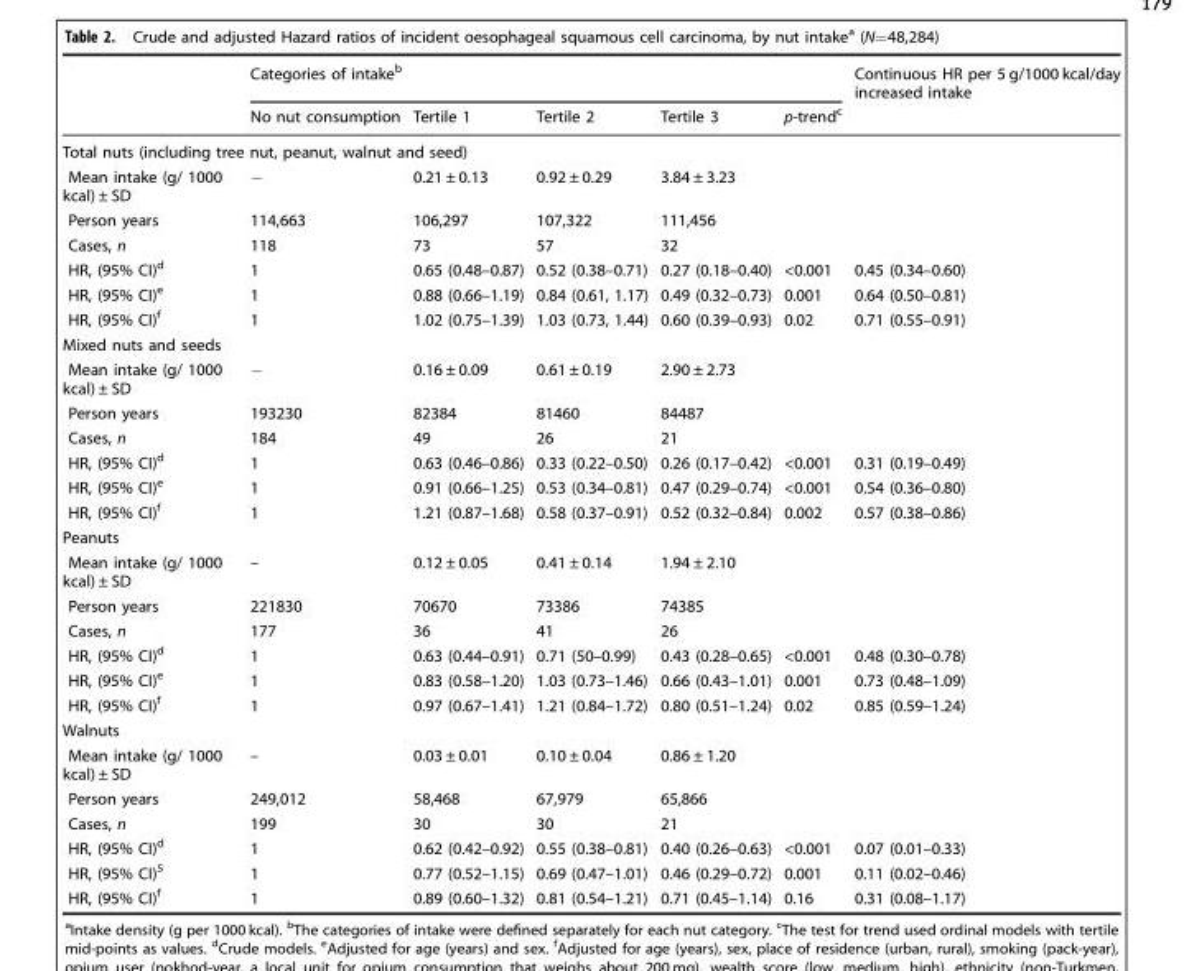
<table><thead><tr><td rowspan="2"></td><td colspan="5">Categories of intake<sup>b</sup></td><td rowspan="2">Continuous HR per 5 g/1000 kcal/day increased intake</td></tr><tr><td>No nut consumption</td><td>Tertile 1</td><td>Tertile 2</td><td>Tertile 3</td><td>p-trend<sup>c</sup></td></tr></thead><tbody><tr><td colspan="7">Total nuts (including tree nut, peanut, walnut and seed)</td></tr><tr><td>Mean intake (g/ 1000 kcal) ± SD</td><td>−</td><td>0.21 ± 0.13</td><td>0.92 ± 0.29</td><td>3.84 ± 3.23</td><td></td><td></td></tr><tr><td>Person years</td><td>114,663</td><td>106,297</td><td>107,322</td><td>111,456</td><td></td><td></td></tr><tr><td>Cases, n</td><td>118</td><td>73</td><td>57</td><td>32</td><td></td><td></td></tr><tr><td>HR, (95% CI)<sup>d</sup></td><td>1</td><td>0.65 (0.48–0.87)</td><td>0.52 (0.38–0.71)</td><td>0.27 (0.18–0.40)</td><td>&lt;0.001</td><td>0.45 (0.34–0.60)</td></tr><tr><td>HR, (95% CI)<sup>e</sup></td><td>1</td><td>0.88 (0.66–1.19)</td><td>0.84 (0.61, 1.17)</td><td>0.49 (0.32–0.73)</td><td>0.001</td><td>0.64 (0.50–0.81)</td></tr><tr><td>HR, (95% CI)<sup>f</sup></td><td>1</td><td>1.02 (0.75–1.39)</td><td>1.03 (0.73, 1.44)</td><td>0.60 (0.39–0.93)</td><td>0.02</td><td>0.71 (0.55–0.91)</td></tr><tr><td colspan="7">Mixed nuts and seeds</td></tr><tr><td>Mean intake (g/ 1000 kcal) ± SD</td><td>−</td><td>0.16 ± 0.09</td><td>0.61 ± 0.19</td><td>2.90 ± 2.73</td><td></td><td></td></tr><tr><td>Person years</td><td>193230</td><td>82384</td><td>81460</td><td>84487</td><td></td><td></td></tr><tr><td>Cases, n</td><td>184</td><td>49</td><td>26</td><td>21</td><td></td><td></td></tr><tr><td>HR, (95% CI)<sup>d</sup></td><td>1</td><td>0.63 (0.46–0.86)</td><td>0.33 (0.22–0.50)</td><td>0.26 (0.17–0.42)</td><td>&lt;0.001</td><td>0.31 (0.19–0.49)</td></tr><tr><td>HR, (95% CI)<sup>e</sup></td><td>1</td><td>0.91 (0.66–1.25)</td><td>0.53 (0.34–0.81)</td><td>0.47 (0.29–0.74)</td><td>&lt;0.001</td><td>0.54 (0.36–0.80)</td></tr><tr><td>HR, (95% CI)<sup>f</sup></td><td>1</td><td>1.21 (0.87–1.68)</td><td>0.58 (0.37–0.91)</td><td>0.52 (0.32–0.84)</td><td>0.002</td><td>0.57 (0.38–0.86)</td></tr><tr><td colspan="7">Peanuts</td></tr><tr><td>Mean intake (g/ 1000 kcal) ± SD</td><td>–</td><td>0.12 ± 0.05</td><td>0.41 ± 0.14</td><td>1.94 ± 2.10</td><td></td><td></td></tr><tr><td>Person years</td><td>221830</td><td>70670</td><td>73386</td><td>74385</td><td></td><td></td></tr><tr><td>Cases, n</td><td>177</td><td>36</td><td>41</td><td>26</td><td></td><td></td></tr><tr><td>HR, (95% CI)<sup>d</sup></td><td>1</td><td>0.63 (0.44–0.91)</td><td>0.71 (50–0.99)</td><td>0.43 (0.28–0.65)</td><td>&lt;0.001</td><td>0.48 (0.30–0.78)</td></tr><tr><td>HR, (95% CI)<sup>e</sup></td><td>1</td><td>0.83 (0.58–1.20)</td><td>1.03 (0.73–1.46)</td><td>0.66 (0.43–1.01)</td><td>0.001</td><td>0.73 (0.48–1.09)</td></tr><tr><td>HR, (95% CI)<sup>f</sup></td><td>1</td><td>0.97 (0.67–1.41)</td><td>1.21 (0.84–1.72)</td><td>0.80 (0.51–1.24)</td><td>0.02</td><td>0.85 (0.59–1.24)</td></tr><tr><td colspan="7">Walnuts</td></tr><tr><td>Mean intake (g/ 1000 kcal) ± SD</td><td>–</td><td>0.03 ± 0.01</td><td>0.10 ± 0.04</td><td>0.86 ± 1.20</td><td></td><td></td></tr><tr><td>Person years</td><td>249,012</td><td>58,468</td><td>67,979</td><td>65,866</td><td></td><td></td></tr><tr><td>Cases, n</td><td>199</td><td>30</td><td>30</td><td>21</td><td></td><td></td></tr><tr><td>HR, (95% CI)<sup>d</sup></td><td>1</td><td>0.62 (0.42–0.92)</td><td>0.55 (0.38–0.81)</td><td>0.40 (0.26–0.63)</td><td>&lt;0.001</td><td>0.07 (0.01–0.33)</td></tr><tr><td>HR, (95% CI)<sup>5</sup></td><td>1</td><td>0.77 (0.52–1.15)</td><td>0.69 (0.47–1.01)</td><td>0.46 (0.29–0.72)</td><td>0.001</td><td>0.11 (0.02–0.46)</td></tr><tr><td>HR, (95% CI)<sup>f</sup></td><td>1</td><td>0.89 (0.60–1.32)</td><td>0.81 (0.54–1.21)</td><td>0.71 (0.45–1.14)</td><td>0.16</td><td>0.31 (0.08–1.17)</td></tr></tbody></table>